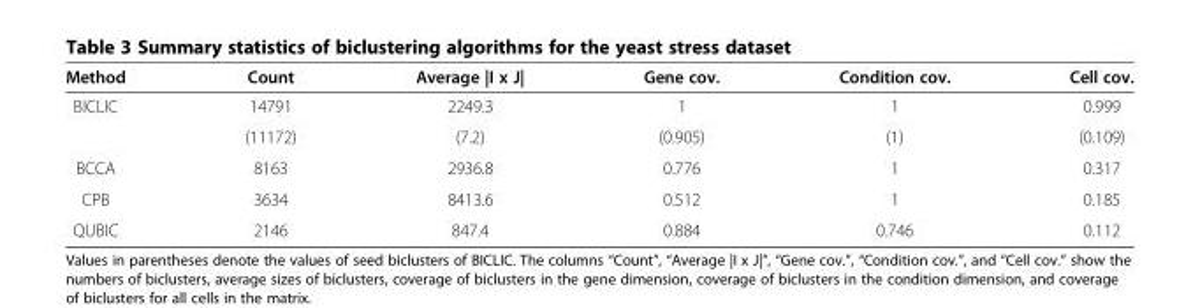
<table><thead><tr><td>Method</td><td>Count</td><td>Average |I x J|</td><td>Gene cov.</td><td>Condition cov.</td><td>Cell cov.</td></tr></thead><tbody><tr><td rowspan="2">BICLIC</td><td>14791</td><td>2249.3</td><td>1</td><td>1</td><td>0.999</td></tr><tr><td>(11172)</td><td>(7.2)</td><td>(0.905)</td><td>(1)</td><td>(0.109)</td></tr><tr><td>BCCA</td><td>8163</td><td>2936.8</td><td>0.776</td><td>1</td><td>0.317</td></tr><tr><td>CPB</td><td>3634</td><td>8413.6</td><td>0.512</td><td>1</td><td>0.185</td></tr><tr><td>QUBIC</td><td>2146</td><td>847.4</td><td>0.884</td><td>0.746</td><td>0.112</td></tr></tbody></table>